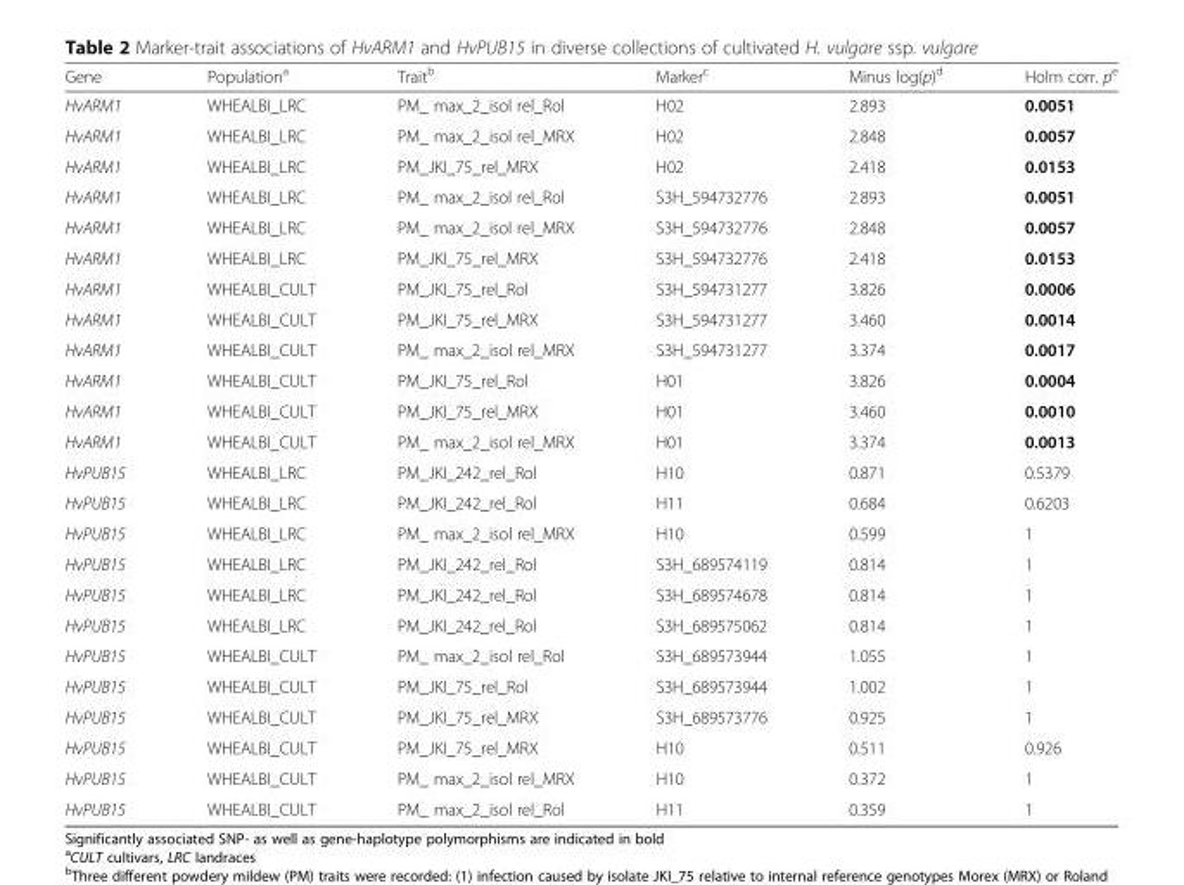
<table><thead><tr><td>Gene</td><td>Population<sup>a</sup></td><td>Trait<sup>b</sup></td><td>Marker<sup>c</sup></td><td>Minus log(p)<sup>d</sup></td><td>Holm corr. p<sup>e</sup></td></tr></thead><tbody><tr><td>HvARM1</td><td>WHEALBI_LRC</td><td>PM_ max_2_isol rel_Rol</td><td>H02</td><td>2.893</td><td>0.0051</td></tr><tr><td>HvARM1</td><td>WHEALBI_LRC</td><td>PM_ max_2_isol rel_MRX</td><td>H02</td><td>2.848</td><td>0.0057</td></tr><tr><td>HvARM1</td><td>WHEALBI_LRC</td><td>PM_JKI_75_rel_MRX</td><td>H02</td><td>2.418</td><td>0.0153</td></tr><tr><td>HvARM1</td><td>WHEALBI_LRC</td><td>PM_ max_2_isol rel_Rol</td><td>S3H_594732776</td><td>2.893</td><td>0.0051</td></tr><tr><td>HvARM1</td><td>WHEALBI_LRC</td><td>PM_ max_2_isol rel_MRX</td><td>S3H_594732776</td><td>2.848</td><td>0.0057</td></tr><tr><td>HvARM1</td><td>WHEALBI_LRC</td><td>PM_JKI_75_rel_MRX</td><td>S3H_594732776</td><td>2.418</td><td>0.0153</td></tr><tr><td>HvARM1</td><td>WHEALBI_CULT</td><td>PM_JKI_75_rel_Rol</td><td>S3H_594731277</td><td>3.826</td><td>0.0006</td></tr><tr><td>HvARM1</td><td>WHEALBI_CULT</td><td>PM_JKI_75_rel_MRX</td><td>S3H_594731277</td><td>3.460</td><td>0.0014</td></tr><tr><td>HvARM1</td><td>WHEALBI_CULT</td><td>PM_ max_2_isol rel_MRX</td><td>S3H_594731277</td><td>3.374</td><td>0.0017</td></tr><tr><td>HvARM1</td><td>WHEALBI_CULT</td><td>PM_JKI_75_rel_Rol</td><td>H01</td><td>3.826</td><td>0.0004</td></tr><tr><td>HvARM1</td><td>WHEALBI_CULT</td><td>PM_JKI_75_rel_MRX</td><td>H01</td><td>3.460</td><td>0.0010</td></tr><tr><td>HvARM1</td><td>WHEALBI_CULT</td><td>PM_ max_2_isol rel_MRX</td><td>H01</td><td>3.374</td><td>0.0013</td></tr><tr><td>HvPUB15</td><td>WHEALBI_LRC</td><td>PM_JKI_242_rel_Rol</td><td>H10</td><td>0.871</td><td>0.5379</td></tr><tr><td>HvPUB15</td><td>WHEALBI_LRC</td><td>PM_JKI_242_rel_Rol</td><td>H11</td><td>0.684</td><td>0.6203</td></tr><tr><td>HvPUB15</td><td>WHEALBI_LRC</td><td>PM_ max_2_isol rel_MRX</td><td>H10</td><td>0.599</td><td>1</td></tr><tr><td>HvPUB15</td><td>WHEALBI_LRC</td><td>PM_JKI_242_rel_Rol</td><td>S3H_689574119</td><td>0.814</td><td>1</td></tr><tr><td>HvPUB15</td><td>WHEALBI_LRC</td><td>PM_JKI_242_rel_Rol</td><td>S3H_689574678</td><td>0.814</td><td>1</td></tr><tr><td>HvPUB15</td><td>WHEALBI_LRC</td><td>PM_JKI_242_rel_Rol</td><td>S3H_689575062</td><td>0.814</td><td>1</td></tr><tr><td>HvPUB15</td><td>WHEALBI_CULT</td><td>PM_ max_2_isol rel_Rol</td><td>S3H_689573944</td><td>1.055</td><td>1</td></tr><tr><td>HvPUB15</td><td>WHEALBI_CULT</td><td>PM_JKI_75_rel_Rol</td><td>S3H_689573944</td><td>1.002</td><td>1</td></tr><tr><td>HvPUB15</td><td>WHEALBI_CULT</td><td>PM_JKI_75_rel_MRX</td><td>S3H_689573776</td><td>0.925</td><td>1</td></tr><tr><td>HvPUB15</td><td>WHEALBI_CULT</td><td>PM_JKI_75_rel_MRX</td><td>H10</td><td>0.511</td><td>0.926</td></tr><tr><td>HvPUB15</td><td>WHEALBI_CULT</td><td>PM_ max_2_isol rel_MRX</td><td>H10</td><td>0.372</td><td>1</td></tr><tr><td>HvPUB15</td><td>WHEALBI_CULT</td><td>PM_ max_2_isol rel_Rol</td><td>H11</td><td>0.359</td><td>1</td></tr></tbody></table>